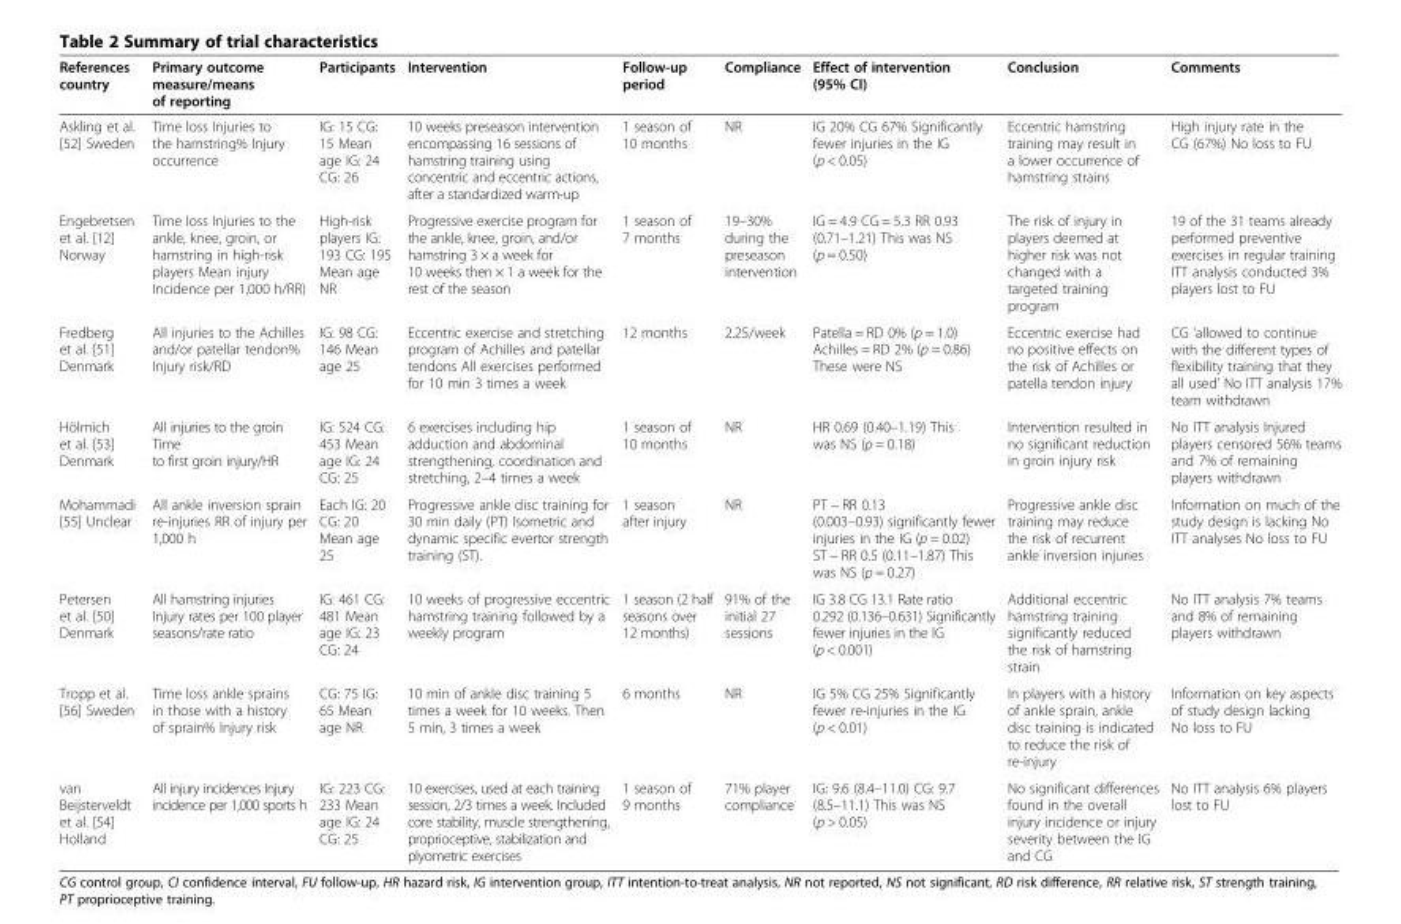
<table><thead><tr><td>References country</td><td>Primary outcome measure/means of reporting</td><td>Participants</td><td>Intervention</td><td>Follow-up period</td><td>Compliance</td><td>Effect of intervention (95% CI)</td><td>Conclusion</td><td>Comments</td></tr></thead><tbody><tr><td>Askling et al. [52] Sweden</td><td>Time loss Injuries to the hamstring% Injury occurrence</td><td>IG: 15 CG: 15 Mean age IG: 24 CG: 26</td><td>10 weeks preseason intervention encompassing 16 sessions of hamstring training using concentric and eccentric actions, after a standardized warm-up</td><td>1 season of 10 months</td><td>NR</td><td>IG 20% CG 67% Significantly fewer injuries in the IG (p &lt; 0.05)</td><td>Eccentric hamstring training may result in a lower occurrence of hamstring strains</td><td>High injury rate in the CG (67%) No loss to FU</td></tr><tr><td>Engebretsen et al. [12] Norway</td><td>Time loss Injuries to the ankle, knee, groin, or hamstring in high-risk players Mean injury Incidence per 1,000 h/RR)</td><td>High-risk players IG: 193 CG: 195 Mean age NR</td><td>Progressive exercise program for the ankle, knee, groin, and/or hamstring 3 × a week for 10 weeks then × 1 a week for the rest of the season</td><td>1 season of 7 months</td><td>19–30% during the preseason intervention</td><td>IG = 4.9 CG = 5.3 RR 0.93 (0.71–1.21) This was NS (p = 0.50)</td><td>The risk of injury in players deemed at higher risk was not changed with a targeted training program</td><td>19 of the 31 teams already performed preventive exercises in regular training ITT analysis conducted 3% players lost to FU</td></tr><tr><td>Fredberg et al. [51] Denmark</td><td>All injuries to the Achilles and/or patellar tendon% Injury risk/RD</td><td>IG: 98 CG: 146 Mean age 25</td><td>Eccentric exercise and stretching program of Achilles and patellar tendons All exercises performed for 10 min 3 times a week</td><td>12 months</td><td>2.25/week</td><td>Patella = RD 0% (p = 1.0) Achilles = RD 2% (p = 0.86) These were NS</td><td>Eccentric exercise had no positive effects on the risk of Achilles or patella tendon injury</td><td>CG ‘allowed to continue with the different types of flexibility training that they all used’ No ITT analysis 17% team withdrawn</td></tr><tr><td>Hölmich et al. [53] Denmark</td><td>All injuries to the groin Time to first groin injury/HR</td><td>IG: 524 CG: 453 Mean age IG: 24 CG: 25</td><td>6 exercises including hip adduction and abdominal strengthening, coordination and stretching, 2–4 times a week</td><td>1 season of 10 months</td><td>NR</td><td>HR 0.69 (0.40–1.19) This was NS (p = 0.18)</td><td>Intervention resulted in no significant reduction in groin injury risk</td><td>No ITT analysis Injured players censored 56% teams and 7% of remaining players withdrawn</td></tr><tr><td>Mohammadi [55] Unclear</td><td>All ankle inversion sprain re-injuries RR of injury per 1,000 h</td><td>Each IG: 20 CG: 20 Mean age 25</td><td>Progressive ankle disc training for 30 min daily (PT) Isometric and dynamic specific evertor strength training (ST).</td><td>1 season after injury</td><td>NR</td><td>PT − RR 0.13 (0.003–0.93) significantly fewer injuries in the IG (p = 0.02) ST − RR 0.5 (0.11–1.87) This was NS (p = 0.27)</td><td>Progressive ankle disc training may reduce the risk of recurrent ankle inversion injuries</td><td>Information on much of the study design is lacking No ITT analyses No loss to FU</td></tr><tr><td>Petersen et al. [50] Denmark</td><td>All hamstring injuries Injury rates per 100 player seasons/rate ratio</td><td>IG: 461 CG: 481 Mean age IG: 23 CG: 24</td><td>10 weeks of progressive eccentric hamstring training followed by a weekly program</td><td>1 season (2 half seasons over 12 months)</td><td>91% of the initial 27 sessions</td><td>IG 3.8 CG 13.1 Rate ratio 0.292 (0.136–0.631) Significantly fewer injuries in the IG (p &lt; 0.001)</td><td>Additional eccentric hamstring training significantly reduced the risk of hamstring strain</td><td>No ITT analysis 7% teams and 8% of remaining players withdrawn</td></tr><tr><td>Tropp et al. [56] Sweden</td><td>Time loss ankle sprains in those with a history of sprain% Injury risk</td><td>CG: 75 IG: 65 Mean age NR</td><td>10 min of ankle disc training 5 times a week for 10 weeks. Then 5 min, 3 times a week</td><td>6 months</td><td>NR</td><td>IG 5% CG 25% Significantly fewer re-injuries in the IG (p &lt; 0.01)</td><td>In players with a history of ankle sprain, ankle disc training is indicated to reduce the risk of re-injury</td><td>Information on key aspects of study design lacking No loss to FU</td></tr><tr><td>van Beijsterveldt et al. [54] Holland</td><td>All injury incidences Injury incidence per 1,000 sports h</td><td>IG: 223 CG: 233 Mean age IG: 24 CG: 25</td><td>10 exercises, used at each training session, 2/3 times a week. Included core stability, muscle strengthening, proprioceptive, stabilization and plyometric exercises</td><td>1 season of 9 months</td><td>71% player compliance</td><td>IG: 9.6 (8.4–11.0) CG: 9.7 (8.5–11.1) This was NS (p &gt; 0.05)</td><td>No significant differences found in the overall injury incidence or injury severity between the IG and CG</td><td>No ITT analysis 6% players lost to FU</td></tr></tbody></table>